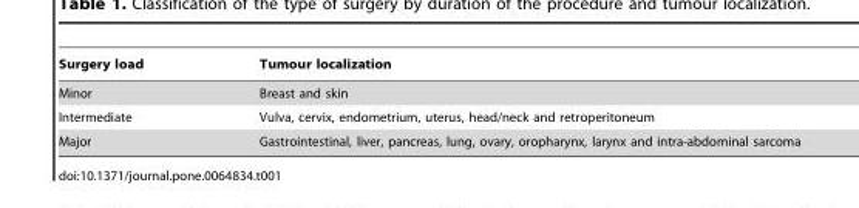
<table><thead><tr><td>Surgery load</td><td>Tumour localization</td></tr></thead><tbody><tr><td>Minor</td><td>Breast and skin</td></tr><tr><td>Intermediate</td><td>Vulva, cervix, endometrium, uterus, head/neck and retroperitoneum</td></tr><tr><td>Major</td><td>Gastrointestinal, liver, pancreas, lung, ovary, oropharynx, larynx and intra-abdominal sarcoma</td></tr></tbody></table>